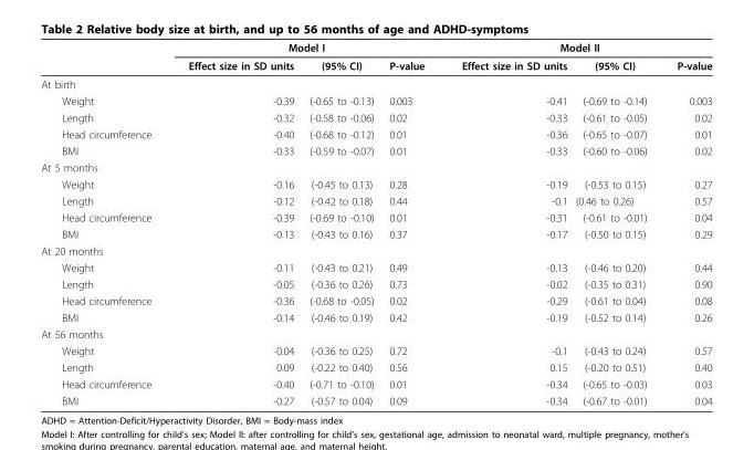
<table><thead><tr><td rowspan="2"></td><td colspan="3">Model I</td><td colspan="3">Model II</td></tr><tr><td>Effect size in SD units</td><td>(95% CI)</td><td>P-value</td><td>Effect size in SD units</td><td>(95% CI)</td><td>P-value</td></tr></thead><tbody><tr><td colspan="7">At birth</td></tr><tr><td>Weight</td><td>-0.39</td><td>(-0.65 to -0.13)</td><td>0.003</td><td>-0.41</td><td>(-0.69 to -0.14)</td><td>0.003</td></tr><tr><td>Length</td><td>-0.32</td><td>(-0.58 to -0.06)</td><td>0.02</td><td>-0.33</td><td>(-0.61 to -0.05)</td><td>0.02</td></tr><tr><td>Head circumference</td><td>-0.40</td><td>(-0.68 to -0.12)</td><td>0.01</td><td>-0.36</td><td>(-0.65 to -0.07)</td><td>0.01</td></tr><tr><td>BMI</td><td>-0.33</td><td>(-0.59 to -0.07)</td><td>0.01</td><td>-0.33</td><td>(-0.60 to -0.06)</td><td>0.02</td></tr><tr><td colspan="7">At 5 months</td></tr><tr><td>Weight</td><td>-0.16</td><td>(-0.45 to 0.13)</td><td>0.28</td><td>-0.19</td><td>(-0.53 to 0.15)</td><td>0.27</td></tr><tr><td>Length</td><td>-0.12</td><td>(-0.42 to 0.18)</td><td>0.44</td><td>-0.1</td><td>(0.46 to 0.26)</td><td>0.57</td></tr><tr><td>Head circumference</td><td>-0.39</td><td>(-0.69 to -0.10)</td><td>0.01</td><td>-0.31</td><td>(-0.61 to -0.01)</td><td>0.04</td></tr><tr><td>BMI</td><td>-0.13</td><td>(-0.43 to 0.16)</td><td>0.37</td><td>-0.17</td><td>(-0.50 to 0.15)</td><td>0.29</td></tr><tr><td colspan="7">At 20 months</td></tr><tr><td>Weight</td><td>-0.11</td><td>(-0.43 to 0.21)</td><td>0.49</td><td>-0.13</td><td>(-0.46 to 0.20)</td><td>0.44</td></tr><tr><td>Length</td><td>-0.05</td><td>(-0.36 to 0.26)</td><td>0.73</td><td>-0.02</td><td>(-0.35 to 0.31)</td><td>0.90</td></tr><tr><td>Head circumference</td><td>-0.36</td><td>(-0.68 to -0.05)</td><td>0.02</td><td>-0.29</td><td>(-0.61 to 0.04)</td><td>0.08</td></tr><tr><td>BMI</td><td>-0.14</td><td>(-0.46 to 0.19)</td><td>0.42</td><td>-0.19</td><td>(-0.52 to 0.14)</td><td>0.26</td></tr><tr><td colspan="7">At 56 months</td></tr><tr><td>Weight</td><td>-0.04</td><td>(-0.36 to 0.25)</td><td>0.72</td><td>-0.1</td><td>(-0.43 to 0.24)</td><td>0.57</td></tr><tr><td>Length</td><td>0.09</td><td>(-0.22 to 0.40)</td><td>0.56</td><td>0.15</td><td>(-0.20 to 0.51)</td><td>0.40</td></tr><tr><td>Head circumference</td><td>-0.40</td><td>(-0.71 to -0.10)</td><td>0.01</td><td>-0.34</td><td>(-0.65 to -0.03)</td><td>0.03</td></tr><tr><td>BMI</td><td>-0.27</td><td>(-0.57 to 0.04)</td><td>0.09</td><td>-0.34</td><td>(-0.67 to -0.01)</td><td>0.04</td></tr></tbody></table>